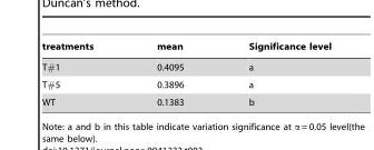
<table><thead><tr><td>treatments</td><td>mean</td><td>Significance level</td></tr></thead><tbody><tr><td>T#1</td><td>0.4095</td><td>a</td></tr><tr><td>T#5</td><td>0.3896</td><td>a</td></tr><tr><td>WT</td><td>0.1383</td><td>b</td></tr></tbody></table>